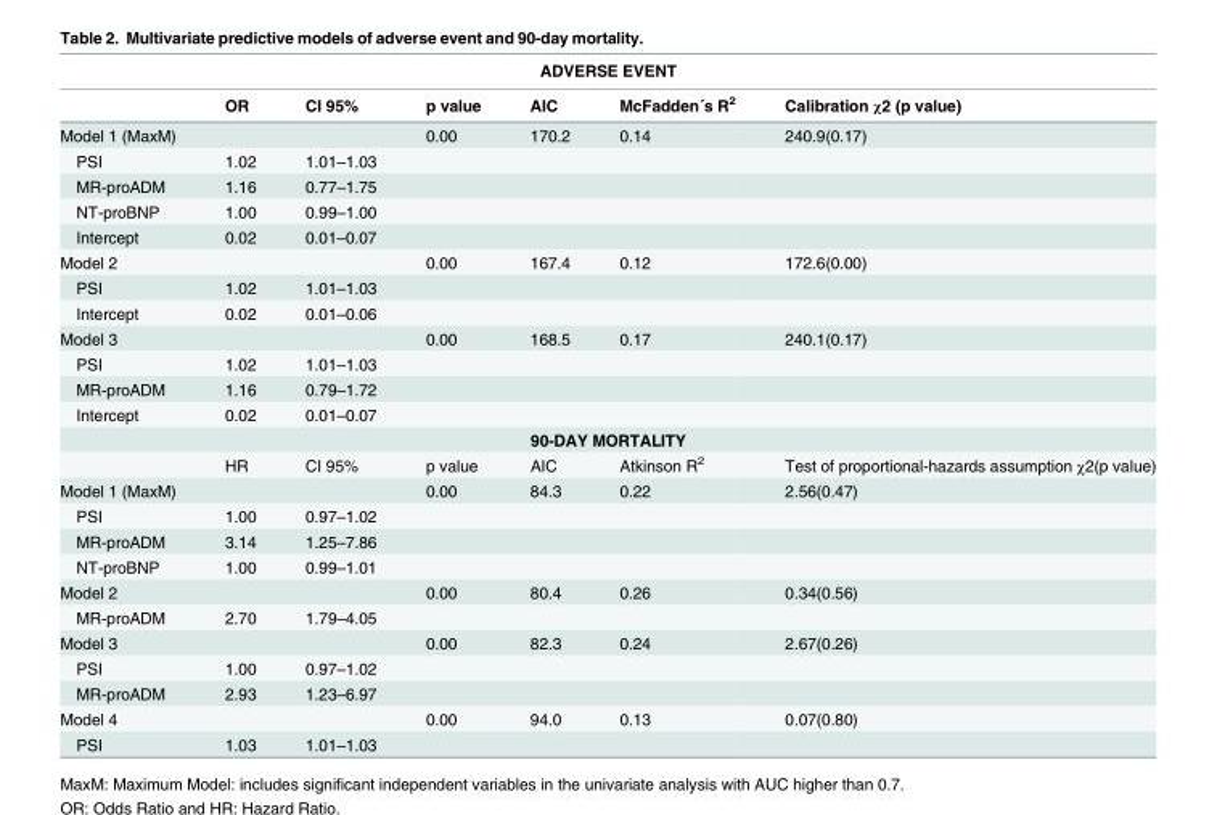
<table><thead><tr><td colspan="7">ADVERSE EVENT</td></tr><tr><td></td><td>OR</td><td>CI 95%</td><td>p value</td><td>AIC</td><td>McFadden´s R<sup>2</sup></td><td>Calibration χ2 (p value)</td></tr></thead><tbody><tr><td>Model 1 (MaxM)</td><td></td><td></td><td>0.00</td><td>170.2</td><td>0.14</td><td>240.9(0.17)</td></tr><tr><td>PSI</td><td>1.02</td><td>1.01–1.03</td><td></td><td></td><td></td><td></td></tr><tr><td>MR-proADM</td><td>1.16</td><td>0.77–1.75</td><td></td><td></td><td></td><td></td></tr><tr><td>NT-proBNP</td><td>1.00</td><td>0.99–1.00</td><td></td><td></td><td></td><td></td></tr><tr><td>Intercept</td><td>0.02</td><td>0.01–0.07</td><td></td><td></td><td></td><td></td></tr><tr><td>Model 2</td><td></td><td></td><td>0.00</td><td>167.4</td><td>0.12</td><td>172.6(0.00)</td></tr><tr><td>PSI</td><td>1.02</td><td>1.01–1.03</td><td></td><td></td><td></td><td></td></tr><tr><td>Intercept</td><td>0.02</td><td>0.01–0.06</td><td></td><td></td><td></td><td></td></tr><tr><td>Model 3</td><td></td><td></td><td>0.00</td><td>168.5</td><td>0.17</td><td>240.1(0.17)</td></tr><tr><td>PSI</td><td>1.02</td><td>1.01–1.03</td><td></td><td></td><td></td><td></td></tr><tr><td>MR-proADM</td><td>1.16</td><td>0.79–1.72</td><td></td><td></td><td></td><td></td></tr><tr><td>Intercept</td><td>0.02</td><td>0.01–0.07</td><td></td><td></td><td></td><td></td></tr><tr><td colspan="7">90-DAY MORTALITY</td></tr><tr><td></td><td>HR</td><td>CI 95%</td><td>p value</td><td>AIC</td><td>Atkinson R<sup>2</sup></td><td>Test of proportional-hazards assumption χ2(p value)</td></tr><tr><td>Model 1 (MaxM)</td><td></td><td></td><td>0.00</td><td>84.3</td><td>0.22</td><td>2.56(0.47)</td></tr><tr><td>PSI</td><td>1.00</td><td>0.97–1.02</td><td></td><td></td><td></td><td></td></tr><tr><td>MR-proADM</td><td>3.14</td><td>1.25–7.86</td><td></td><td></td><td></td><td></td></tr><tr><td>NT-proBNP</td><td>1.00</td><td>0.99–1.01</td><td></td><td></td><td></td><td></td></tr><tr><td>Model 2</td><td></td><td></td><td>0.00</td><td>80.4</td><td>0.26</td><td>0.34(0.56)</td></tr><tr><td>MR-proADM</td><td>2.70</td><td>1.79–4.05</td><td></td><td></td><td></td><td></td></tr><tr><td>Model 3</td><td></td><td></td><td>0.00</td><td>82.3</td><td>0.24</td><td>2.67(0.26)</td></tr><tr><td>PSI</td><td>1.00</td><td>0.97–1.02</td><td></td><td></td><td></td><td></td></tr><tr><td>MR-proADM</td><td>2.93</td><td>1.23–6.97</td><td></td><td></td><td></td><td></td></tr><tr><td>Model 4</td><td></td><td></td><td>0.00</td><td>94.0</td><td>0.13</td><td>0.07(0.80)</td></tr><tr><td>PSI</td><td>1.03</td><td>1.01–1.03</td><td></td><td></td><td></td><td></td></tr></tbody></table>